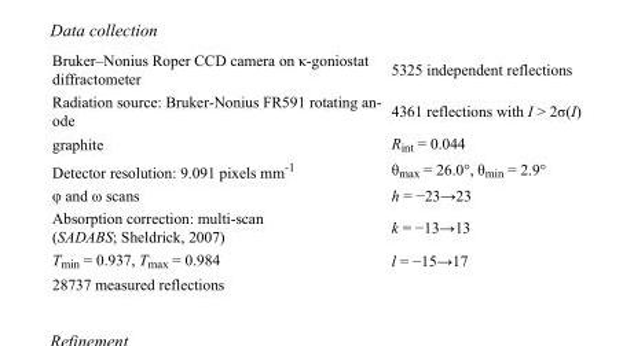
<table><tbody><tr><td>Bruker–Nonius Roper CCD camera on κ-goniostat diffractometer</td><td>5325 independent reflections</td></tr><tr><td>Radiation source: Bruker-Nonius FR591 rotating an- ode</td><td>4361 reflections with I &gt; 2σ(I)</td></tr><tr><td>graphite</td><td>R<sub>int</sub> = 0.044</td></tr><tr><td>Detector resolution: 9.091 pixels mm<sup>-1</sup></td><td>θ<sub>max</sub> = 26.0°, θ<sub>min</sub> = 2.9°</td></tr><tr><td>φ and ω scans</td><td>h = −23→23</td></tr><tr><td>Absorption correction: multi-scan (SADABS; Sheldrick, 2007)</td><td>k = −13→13</td></tr><tr><td>T<sub>min</sub> = 0.937, T<sub>max</sub> = 0.984</td><td>l = −15→17</td></tr><tr><td>28737 measured reflections</td><td></td></tr></tbody></table>